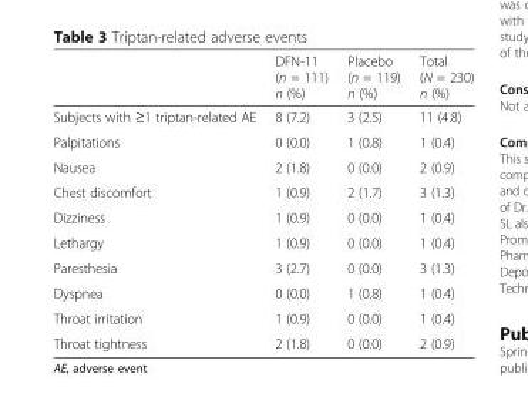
<table><thead><tr><td></td><td>DFN-11 (n = 111) n (%)</td><td>Placebo (n = 119) n (%)</td><td>Total (N = 230) n (%)</td></tr></thead><tbody><tr><td>Subjects with ≥1 triptan-related AE</td><td>8 (7.2)</td><td>3 (2.5)</td><td>11 (4.8)</td></tr><tr><td>Palpitations</td><td>0 (0.0)</td><td>1 (0.8)</td><td>1 (0.4)</td></tr><tr><td>Nausea</td><td>2 (1.8)</td><td>0 (0.0)</td><td>2 (0.9)</td></tr><tr><td>Chest discomfort</td><td>1 (0.9)</td><td>2 (1.7)</td><td>3 (1.3)</td></tr><tr><td>Dizziness</td><td>1 (0.9)</td><td>0 (0.0)</td><td>1 (0.4)</td></tr><tr><td>Lethargy</td><td>1 (0.9)</td><td>0 (0.0)</td><td>1 (0.4)</td></tr><tr><td>Paresthesia</td><td>3 (2.7)</td><td>0 (0.0)</td><td>3 (1.3)</td></tr><tr><td>Dyspnea</td><td>0 (0.0)</td><td>1 (0.8)</td><td>1 (0.4)</td></tr><tr><td>Throat irritation</td><td>1 (0.9)</td><td>0 (0.0)</td><td>1 (0.4)</td></tr><tr><td>Throat tightness</td><td>2 (1.8)</td><td>0 (0.0)</td><td>2 (0.9)</td></tr></tbody></table>